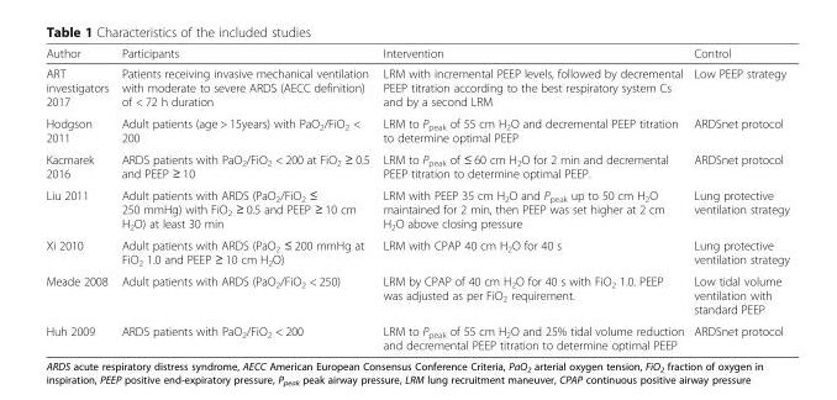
<table><thead><tr><td>Author</td><td>Participants</td><td>Intervention</td><td>Control</td></tr></thead><tbody><tr><td>ART investigators 2017</td><td>Patients receiving invasive mechanical ventilation with moderate to severe ARDS (AECC definition) of &lt; 72 h duration</td><td>LRM with incremental PEEP levels, followed by decremental PEEP titration according to the best respiratory system Cs and by a second LRM</td><td>Low PEEP strategy</td></tr><tr><td>Hodgson 2011</td><td>Adult patients (age &gt; 15years) with PaO<sub>2</sub>/FiO<sub>2</sub> &lt; 200</td><td>LRM to P<sub>peak</sub> of 55 cm H<sub>2</sub>O and decremental PEEP titration to determine optimal PEEP</td><td>ARDSnet protocol</td></tr><tr><td>Kacmarek 2016</td><td>ARDS patients with PaO<sub>2</sub>/FiO<sub>2</sub> &lt; 200 at FiO<sub>2</sub> ≥ 0.5 and PEEP ≥ 10</td><td>LRM to P<sub>peak</sub> of ≤ 60 cm H<sub>2</sub>O for 2 min and decremental PEEP titration to determine optimal PEEP.</td><td>ARDSnet protocol</td></tr><tr><td>Liu 2011</td><td>Adult patients with ARDS (PaO<sub>2</sub>/FiO<sub>2</sub> ≤ 250 mmHg) with FiO<sub>2</sub> ≥ 0.5 and PEEP ≥ 10 cm H<sub>2</sub>O) at least 30 min</td><td>LRM with PEEP 35 cm H<sub>2</sub>O and P<sub>peak</sub> up to 50 cm H<sub>2</sub>O maintained for 2 min, then PEEP was set higher at 2 cm H<sub>2</sub>O above closing pressure</td><td>Lung protective ventilation strategy</td></tr><tr><td>Xi 2010</td><td>Adult patients with ARDS (PaO<sub>2</sub> ≤ 200 mmHg at FiO<sub>2</sub> 1.0 and PEEP ≥ 10 cm H<sub>2</sub>O)</td><td>LRM with CPAP 40 cm H<sub>2</sub>O for 40 s</td><td>Lung protective ventilation strategy</td></tr><tr><td>Meade 2008</td><td>Adult patients with ARDS (PaO<sub>2</sub>/FiO<sub>2</sub> &lt; 250)</td><td>LRM by CPAP of 40 cm H<sub>2</sub>O for 40 s with FiO<sub>2</sub> 1.0. PEEP was adjusted as per FiO<sub>2</sub> requirement.</td><td>Low tidal volume ventilation with standard PEEP</td></tr><tr><td>Huh 2009</td><td>ARDS patients with PaO<sub>2</sub>/FiO<sub>2</sub> &lt; 200</td><td>LRM to P<sub>peak</sub> of 55 cm H<sub>2</sub>O and 25% tidal volume reduction and decremental PEEP titration to determine optimal PEEP</td><td>ARDSnet protocol</td></tr></tbody></table>